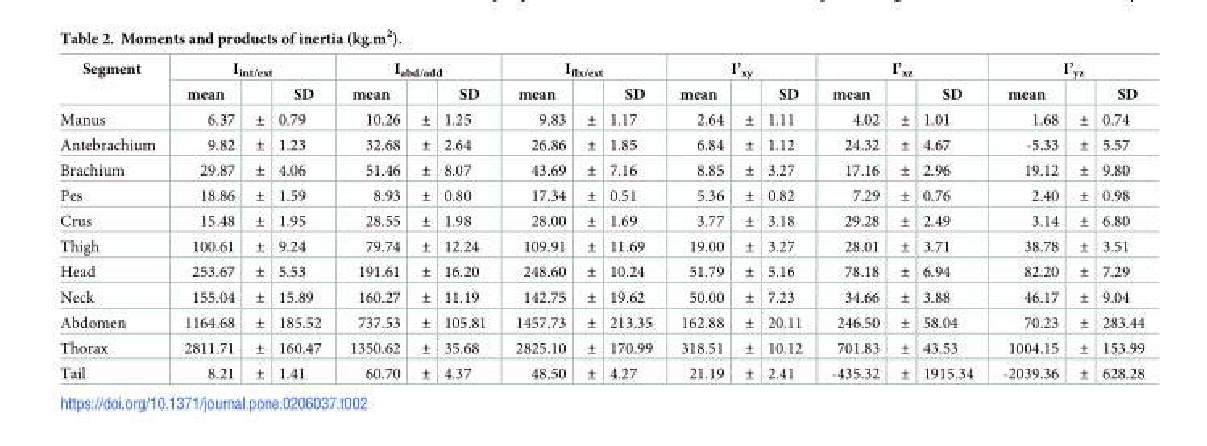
<table><thead><tr><td rowspan="2">Segment</td><td colspan="3">I<sub>int/ext</sub></td><td colspan="3">I<sub>abd/add</sub></td><td colspan="3">I<sub>flx/ext</sub></td><td colspan="3">I’<sub>xy</sub></td><td colspan="3">I’<sub>xz</sub></td><td colspan="3">I’<sub>yz</sub></td></tr><tr><td>mean</td><td></td><td>SD</td><td>mean</td><td></td><td>SD</td><td>mean</td><td></td><td>SD</td><td>mean</td><td></td><td>SD</td><td>mean</td><td></td><td>SD</td><td>mean</td><td></td><td>SD</td></tr></thead><tbody><tr><td>Manus</td><td>6.37</td><td>±</td><td>0.79</td><td>10.26</td><td>±</td><td>1.25</td><td>9.83</td><td>±</td><td>1.17</td><td>2.64</td><td>±</td><td>1.11</td><td>4.02</td><td>±</td><td>1.01</td><td>1.68</td><td>±</td><td>0.74</td></tr><tr><td>Antebrachium</td><td>9.82</td><td>±</td><td>1.23</td><td>32.68</td><td>±</td><td>2.64</td><td>26.86</td><td>±</td><td>1.85</td><td>6.84</td><td>±</td><td>1.12</td><td>24.32</td><td>±</td><td>4.67</td><td>-5.33</td><td>±</td><td>5.57</td></tr><tr><td>Brachium</td><td>29.87</td><td>±</td><td>4.06</td><td>51.46</td><td>±</td><td>8.07</td><td>43.69</td><td>±</td><td>7.16</td><td>8.85</td><td>±</td><td>3.27</td><td>17.16</td><td>±</td><td>2.96</td><td>19.12</td><td>±</td><td>9.80</td></tr><tr><td>Pes</td><td>18.86</td><td>±</td><td>1.59</td><td>8.93</td><td>±</td><td>0.80</td><td>17.34</td><td>±</td><td>0.51</td><td>5.36</td><td>±</td><td>0.82</td><td>7.29</td><td>±</td><td>0.76</td><td>2.40</td><td>±</td><td>0.98</td></tr><tr><td>Crus</td><td>15.48</td><td>±</td><td>1.95</td><td>28.55</td><td>±</td><td>1.98</td><td>28.00</td><td>±</td><td>1.69</td><td>3.77</td><td>±</td><td>3.18</td><td>29.28</td><td>±</td><td>2.49</td><td>3.14</td><td>±</td><td>6.80</td></tr><tr><td>Thigh</td><td>100.61</td><td>±</td><td>9.24</td><td>79.74</td><td>±</td><td>12.24</td><td>109.91</td><td>±</td><td>11.69</td><td>19.00</td><td>±</td><td>3.27</td><td>28.01</td><td>±</td><td>3.71</td><td>38.78</td><td>±</td><td>3.51</td></tr><tr><td>Head</td><td>253.67</td><td>±</td><td>5.53</td><td>191.61</td><td>±</td><td>16.20</td><td>248.60</td><td>±</td><td>10.24</td><td>51.79</td><td>±</td><td>5.16</td><td>78.18</td><td>±</td><td>6.94</td><td>82.20</td><td>±</td><td>7.29</td></tr><tr><td>Neck</td><td>155.04</td><td>±</td><td>15.89</td><td>160.27</td><td>±</td><td>11.19</td><td>142.75</td><td>±</td><td>19.62</td><td>50.00</td><td>±</td><td>7.23</td><td>34.66</td><td>±</td><td>3.88</td><td>46.17</td><td>±</td><td>9.04</td></tr><tr><td>Abdomen</td><td>1164.68</td><td>±</td><td>185.52</td><td>737.53</td><td>±</td><td>105.81</td><td>1457.73</td><td>±</td><td>213.35</td><td>162.88</td><td>±</td><td>20.11</td><td>246.50</td><td>±</td><td>58.04</td><td>70.23</td><td>±</td><td>283.44</td></tr><tr><td>Thorax</td><td>2811.71</td><td>±</td><td>160.47</td><td>1350.62</td><td>±</td><td>35.68</td><td>2825.10</td><td>±</td><td>170.99</td><td>318.51</td><td>±</td><td>10.12</td><td>701.83</td><td>±</td><td>43.53</td><td>1004.15</td><td>±</td><td>153.99</td></tr><tr><td>Tail</td><td>8.21</td><td>±</td><td>1.41</td><td>60.70</td><td>±</td><td>4.37</td><td>48.50</td><td>±</td><td>4.27</td><td>21.19</td><td>±</td><td>2.41</td><td>-435.32</td><td>±</td><td>1915.34</td><td>-2039.36</td><td>±</td><td>628.28</td></tr></tbody></table>